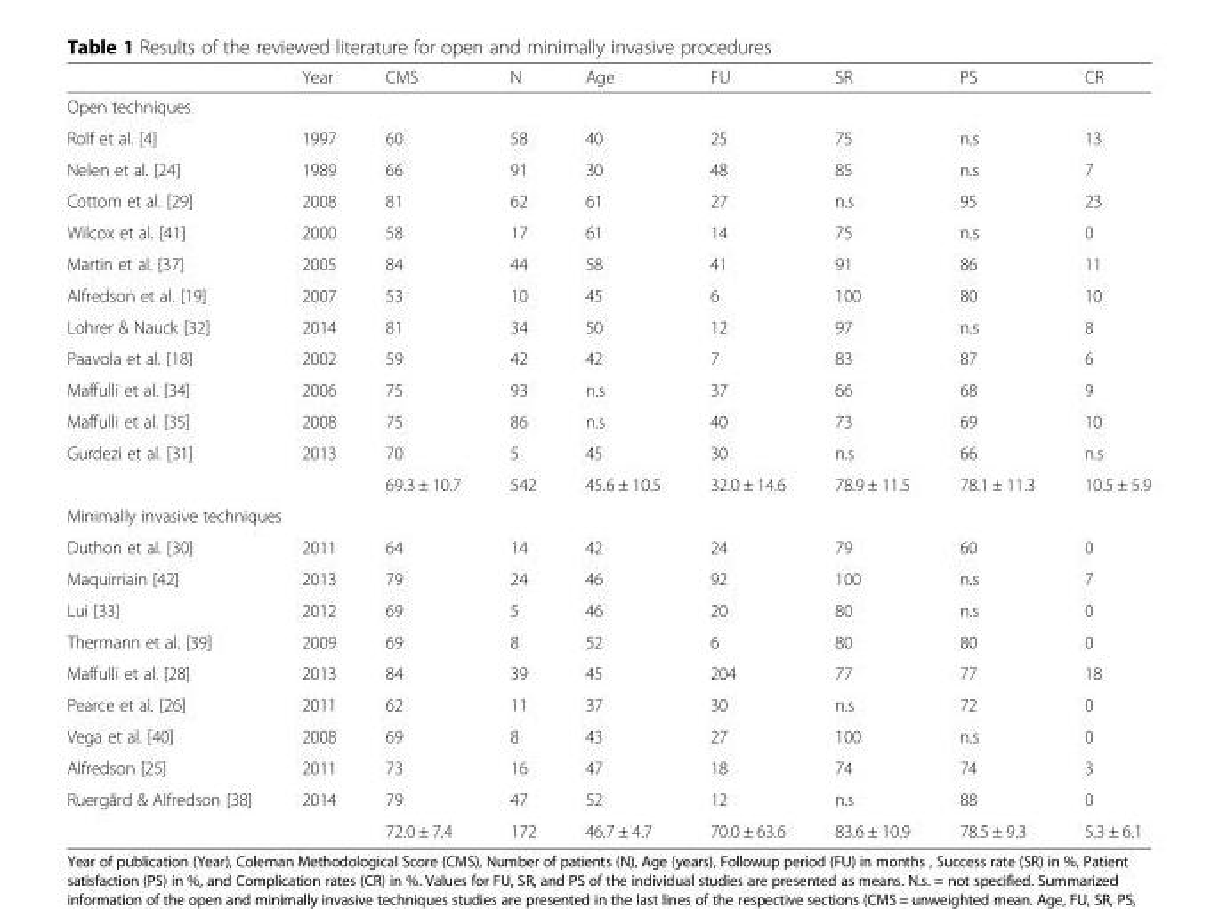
<table><thead><tr><td></td><td>Year</td><td>CMS</td><td>N</td><td>Age</td><td>FU</td><td>SR</td><td>PS</td><td>CR</td></tr></thead><tbody><tr><td colspan="9">Open techniques</td></tr><tr><td>Rolf et al. [4]</td><td>1997</td><td>60</td><td>58</td><td>40</td><td>25</td><td>75</td><td>n.s</td><td>13</td></tr><tr><td>Nelen et al. [24]</td><td>1989</td><td>66</td><td>91</td><td>30</td><td>48</td><td>85</td><td>n.s</td><td>7</td></tr><tr><td>Cottom et al. [29]</td><td>2008</td><td>81</td><td>62</td><td>61</td><td>27</td><td>n.s</td><td>95</td><td>23</td></tr><tr><td>Wilcox et al. [41]</td><td>2000</td><td>58</td><td>17</td><td>61</td><td>14</td><td>75</td><td>n.s</td><td>0</td></tr><tr><td>Martin et al. [37]</td><td>2005</td><td>84</td><td>44</td><td>58</td><td>41</td><td>91</td><td>86</td><td>11</td></tr><tr><td>Alfredson et al. [19]</td><td>2007</td><td>53</td><td>10</td><td>45</td><td>6</td><td>100</td><td>80</td><td>10</td></tr><tr><td>Lohrer &amp; Nauck [32]</td><td>2014</td><td>81</td><td>34</td><td>50</td><td>12</td><td>97</td><td>n.s</td><td>8</td></tr><tr><td>Paavola et al. [18]</td><td>2002</td><td>59</td><td>42</td><td>42</td><td>7</td><td>83</td><td>87</td><td>6</td></tr><tr><td>Maffulli et al. [34]</td><td>2006</td><td>75</td><td>93</td><td>n.s</td><td>37</td><td>66</td><td>68</td><td>9</td></tr><tr><td>Maffulli et al. [35]</td><td>2008</td><td>75</td><td>86</td><td>n.s</td><td>40</td><td>73</td><td>69</td><td>10</td></tr><tr><td rowspan="2">Gurdezi et al. [31]</td><td>2013</td><td>70</td><td>5</td><td>45</td><td>30</td><td>n.s</td><td>66</td><td>n.s</td></tr><tr><td></td><td>69.3 ± 10.7</td><td>542</td><td>45.6 ± 10.5</td><td>32.0 ± 14.6</td><td>78.9 ± 11.5</td><td>78.1 ± 11.3</td><td>10.5 ± 5.9</td></tr><tr><td colspan="9">Minimally invasive techniques</td></tr><tr><td>Duthon et al. [30]</td><td>2011</td><td>64</td><td>14</td><td>42</td><td>24</td><td>79</td><td>60</td><td>0</td></tr><tr><td>Maquirriain [42]</td><td>2013</td><td>79</td><td>24</td><td>46</td><td>92</td><td>100</td><td>n.s</td><td>7</td></tr><tr><td>Lui [33]</td><td>2012</td><td>69</td><td>5</td><td>46</td><td>20</td><td>80</td><td>n.s</td><td>0</td></tr><tr><td>Thermann et al. [39]</td><td>2009</td><td>69</td><td>8</td><td>52</td><td>6</td><td>80</td><td>80</td><td>0</td></tr><tr><td>Maffulli et al. [28]</td><td>2013</td><td>84</td><td>39</td><td>45</td><td>204</td><td>77</td><td>77</td><td>18</td></tr><tr><td>Pearce et al. [26]</td><td>2011</td><td>62</td><td>11</td><td>37</td><td>30</td><td>n.s</td><td>72</td><td>0</td></tr><tr><td>Vega et al. [40]</td><td>2008</td><td>69</td><td>8</td><td>43</td><td>27</td><td>100</td><td>n.s</td><td>0</td></tr><tr><td>Alfredson [25]</td><td>2011</td><td>73</td><td>16</td><td>47</td><td>18</td><td>74</td><td>74</td><td>3</td></tr><tr><td rowspan="2">Ruergård &amp; Alfredson [38]</td><td>2014</td><td>79</td><td>47</td><td>52</td><td>12</td><td>n.s</td><td>88</td><td>0</td></tr><tr><td></td><td>72.0 ± 7.4</td><td>172</td><td>46.7 ± 4.7</td><td>70.0 ± 63.6</td><td>83.6 ± 10.9</td><td>78.5 ± 9.3</td><td>5.3 ± 6.1</td></tr></tbody></table>